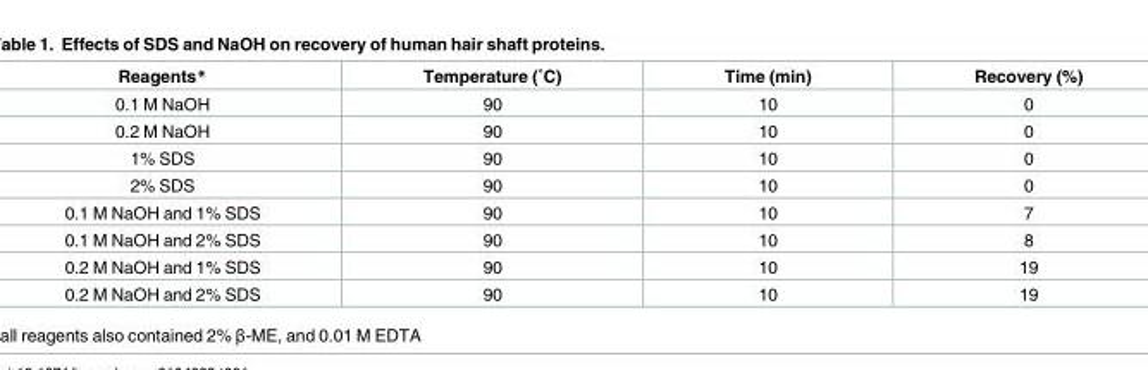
<table><thead><tr><td>Reagents*</td><td>Temperature (˚C)</td><td>Time (min)</td><td>Recovery (%)</td></tr></thead><tbody><tr><td>0.1 M NaOH</td><td>90</td><td>10</td><td>0</td></tr><tr><td>0.2 M NaOH</td><td>90</td><td>10</td><td>0</td></tr><tr><td>1% SDS</td><td>90</td><td>10</td><td>0</td></tr><tr><td>2% SDS</td><td>90</td><td>10</td><td>0</td></tr><tr><td>0.1 M NaOH and 1% SDS</td><td>90</td><td>10</td><td>7</td></tr><tr><td>0.1 M NaOH and 2% SDS</td><td>90</td><td>10</td><td>8</td></tr><tr><td>0.2 M NaOH and 1% SDS</td><td>90</td><td>10</td><td>19</td></tr><tr><td>0.2 M NaOH and 2% SDS</td><td>90</td><td>10</td><td>19</td></tr></tbody></table>